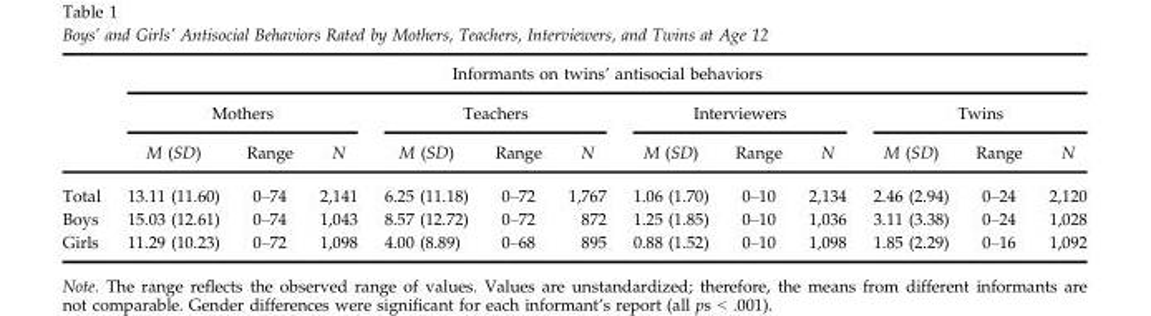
<table><thead><tr><td rowspan="3"></td><td colspan="12">Informants on twins’ antisocial behaviors</td></tr><tr><td colspan="3">Mothers</td><td colspan="3">Teachers</td><td colspan="3">Interviewers</td><td colspan="3">Twins</td></tr><tr><td>M (SD)</td><td>Range</td><td>N</td><td>M (SD)</td><td>Range</td><td>N</td><td>M (SD)</td><td>Range</td><td>N</td><td>M (SD)</td><td>Range</td><td>N</td></tr></thead><tbody><tr><td>Total</td><td>13.11 (11.60)</td><td>0–74</td><td>2,141</td><td>6.25 (11.18)</td><td>0–72</td><td>1,767</td><td>1.06 (1.70)</td><td>0–10</td><td>2,134</td><td>2.46 (2.94)</td><td>0–24</td><td>2,120</td></tr><tr><td>Boys</td><td>15.03 (12.61)</td><td>0–74</td><td>1,043</td><td>8.57 (12.72)</td><td>0–72</td><td>872</td><td>1.25 (1.85)</td><td>0–10</td><td>1,036</td><td>3.11 (3.38)</td><td>0–24</td><td>1,028</td></tr><tr><td>Girls</td><td>11.29 (10.23)</td><td>0–72</td><td>1,098</td><td>4.00 (8.89)</td><td>0–68</td><td>895</td><td>0.88 (1.52)</td><td>0–10</td><td>1,098</td><td>1.85 (2.29)</td><td>0–16</td><td>1,092</td></tr></tbody></table>